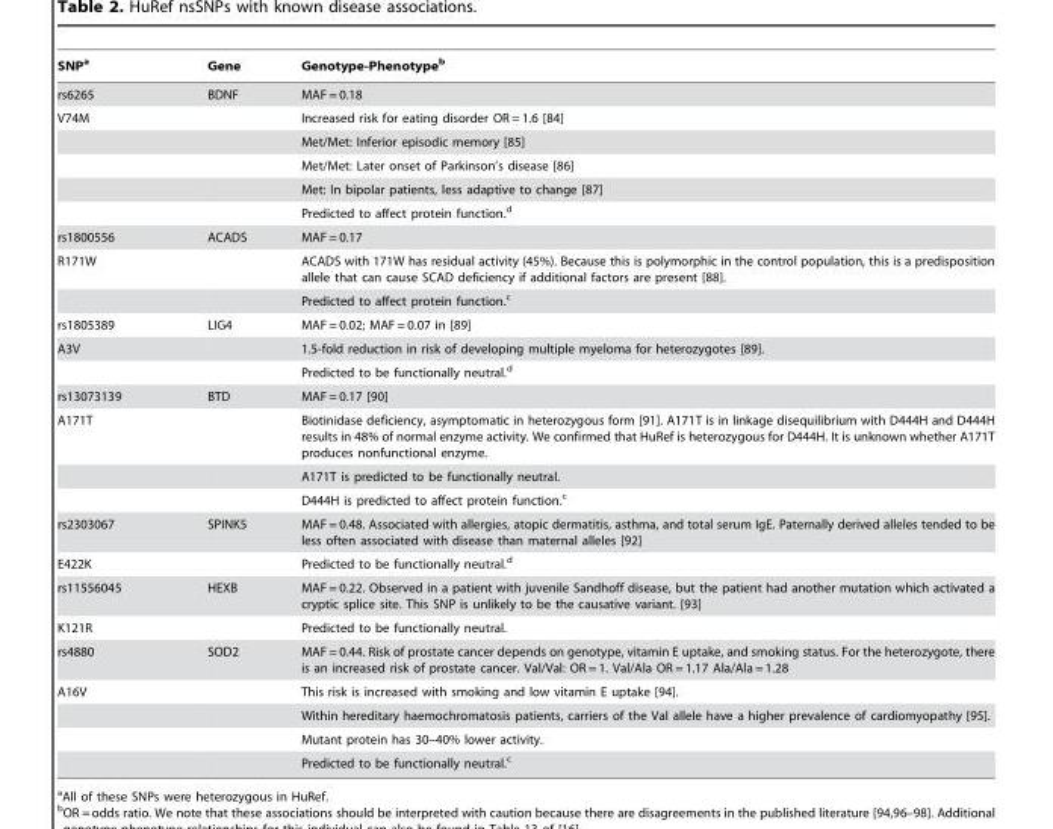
<table><thead><tr><td>SNP<sup>a</sup></td><td>Gene</td><td>Genotype-Phenotype<sup>b</sup></td></tr></thead><tbody><tr><td>rs6265</td><td>BDNF</td><td>MAF = 0.18</td></tr><tr><td rowspan="5">V74M</td><td></td><td>Increased risk for eating disorder OR = 1.6 [84]</td></tr><tr><td></td><td>Met/Met: Inferior episodic memory [85]</td></tr><tr><td></td><td>Met/Met: Later onset of Parkinson’s disease [86]</td></tr><tr><td></td><td>Met: In bipolar patients, less adaptive to change [87]</td></tr><tr><td></td><td>Predicted to affect protein function.<sup>d</sup></td></tr><tr><td>rs1800556</td><td>ACADS</td><td>MAF = 0.17</td></tr><tr><td rowspan="2">R171W</td><td></td><td>ACADS with 171W has residual activity (45%). Because this is polymorphic in the control population, this is a predisposition allele that can cause SCAD deficiency if additional factors are present [88].</td></tr><tr><td></td><td>Predicted to affect protein function.<sup>c</sup></td></tr><tr><td>rs1805389</td><td>LIG4</td><td>MAF = 0.02; MAF = 0.07 in [89]</td></tr><tr><td rowspan="2">A3V</td><td></td><td>1.5-fold reduction in risk of developing multiple myeloma for heterozygotes [89].</td></tr><tr><td></td><td>Predicted to be functionally neutral.<sup>d</sup></td></tr><tr><td>rs13073139</td><td>BTD</td><td>MAF = 0.17 [90]</td></tr><tr><td rowspan="3">A171T</td><td></td><td>Biotinidase deficiency, asymptomatic in heterozygous form [91]. A171T is in linkage disequilibrium with D444H and D444H results in 48% of normal enzyme activity. We confirmed that HuRef is heterozygous for D444H. It is unknown whether A171T produces nonfunctional enzyme.</td></tr><tr><td></td><td>A171T is predicted to be functionally neutral.</td></tr><tr><td></td><td>D444H is predicted to affect protein function.<sup>c</sup></td></tr><tr><td>rs2303067</td><td>SPINK5</td><td>MAF = 0.48. Associated with allergies, atopic dermatitis, asthma, and total serum IgE. Paternally derived alleles tended to be less often associated with disease than maternal alleles [92]</td></tr><tr><td>E422K</td><td></td><td>Predicted to be functionally neutral.<sup>d</sup></td></tr><tr><td>rs11556045</td><td>HEXB</td><td>MAF = 0.22. Observed in a patient with juvenile Sandhoff disease, but the patient had another mutation which activated a cryptic splice site. This SNP is unlikely to be the causative variant. [93]</td></tr><tr><td>K121R</td><td></td><td>Predicted to be functionally neutral.</td></tr><tr><td>rs4880</td><td>SOD2</td><td>MAF = 0.44. Risk of prostate cancer depends on genotype, vitamin E uptake, and smoking status. For the heterozygote, there is an increased risk of prostate cancer. Val/Val: OR = 1. Val/Ala OR = 1.17 Ala/Ala = 1.28</td></tr><tr><td rowspan="4">A16V</td><td></td><td>This risk is increased with smoking and low vitamin E uptake [94].</td></tr><tr><td></td><td>Within hereditary haemochromatosis patients, carriers of the Val allele have a higher prevalence of cardiomyopathy [95].</td></tr><tr><td></td><td>Mutant protein has 30–40% lower activity.</td></tr><tr><td></td><td>Predicted to be functionally neutral.<sup>c</sup></td></tr></tbody></table>